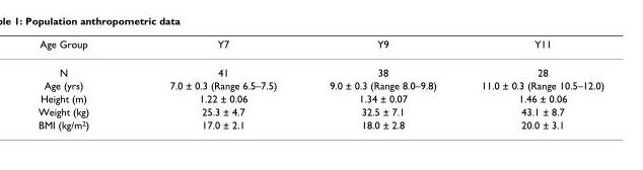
<table><thead><tr><td>Age Group</td><td>Y7</td><td>Y9</td><td>Y11</td></tr></thead><tbody><tr><td>N</td><td>41</td><td>38</td><td>28</td></tr><tr><td>Age (yrs)</td><td>7.0 ± 0.3 (Range 6.5–7.5)</td><td>9.0 ± 0.3 (Range 8.0–9.8)</td><td>11.0 ± 0.3 (Range 10.5–12.0)</td></tr><tr><td>Height (m)</td><td>1.22 ± 0.06</td><td>1.34 ± 0.07</td><td>1.46 ± 0.06</td></tr><tr><td>Weight (kg)</td><td>25.3 ± 4.7</td><td>32.5 ± 7.1</td><td>43.1 ± 8.7</td></tr><tr><td>BMI (kg/m<sup>2</sup>)</td><td>17.0 ± 2.1</td><td>18.0 ± 2.8</td><td>20.0 ± 3.1</td></tr></tbody></table>